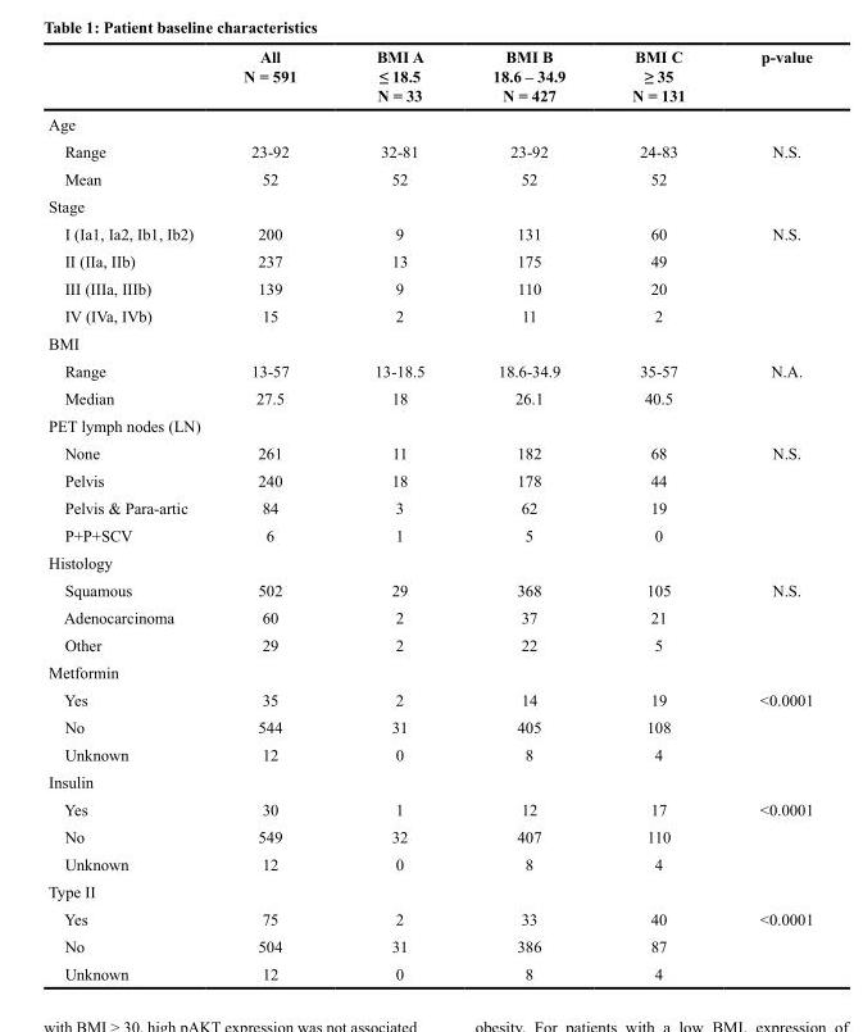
<table><thead><tr><td></td><td>All N = 591</td><td>BMI A ≤ 18.5 N = 33</td><td>BMI B 18.6 – 34.9 N = 427</td><td>BMI C ≥ 35 N = 131</td><td>p-value</td></tr></thead><tbody><tr><td colspan="6">Age</td></tr><tr><td>Range</td><td>23-92</td><td>32-81</td><td>23-92</td><td>24-83</td><td rowspan="2">N.S.</td></tr><tr><td>Mean</td><td>52</td><td>52</td><td>52</td><td>52</td></tr><tr><td colspan="6">Stage</td></tr><tr><td>I (Ia1, Ia2, Ib1, Ib2)</td><td>200</td><td>9</td><td>131</td><td>60</td><td rowspan="4">N.S.</td></tr><tr><td>II (IIa, IIb)</td><td>237</td><td>13</td><td>175</td><td>49</td></tr><tr><td>III (IIIa, IIIb)</td><td>139</td><td>9</td><td>110</td><td>20</td></tr><tr><td>IV (IVa, IVb)</td><td>15</td><td>2</td><td>11</td><td>2</td></tr><tr><td colspan="6">BMI</td></tr><tr><td>Range</td><td>13-57</td><td>13-18.5</td><td>18.6-34.9</td><td>35-57</td><td rowspan="2">N.A.</td></tr><tr><td>Median</td><td>27.5</td><td>18</td><td>26.1</td><td>40.5</td></tr><tr><td colspan="6">PET lymph nodes (LN)</td></tr><tr><td>None</td><td>261</td><td>11</td><td>182</td><td>68</td><td rowspan="4">N.S.</td></tr><tr><td>Pelvis</td><td>240</td><td>18</td><td>178</td><td>44</td></tr><tr><td>Pelvis &amp; Para-artic</td><td>84</td><td>3</td><td>62</td><td>19</td></tr><tr><td>P+P+SCV</td><td>6</td><td>1</td><td>5</td><td>0</td></tr><tr><td colspan="6">Histology</td></tr><tr><td>Squamous</td><td>502</td><td>29</td><td>368</td><td>105</td><td rowspan="3">N.S.</td></tr><tr><td>Adenocarcinoma</td><td>60</td><td>2</td><td>37</td><td>21</td></tr><tr><td>Other</td><td>29</td><td>2</td><td>22</td><td>5</td></tr><tr><td colspan="6">Metformin</td></tr><tr><td>Yes</td><td>35</td><td>2</td><td>14</td><td>19</td><td rowspan="3">&lt;0.0001</td></tr><tr><td>No</td><td>544</td><td>31</td><td>405</td><td>108</td></tr><tr><td>Unknown</td><td>12</td><td>0</td><td>8</td><td>4</td></tr><tr><td colspan="6">Insulin</td></tr><tr><td>Yes</td><td>30</td><td>1</td><td>12</td><td>17</td><td rowspan="3">&lt;0.0001</td></tr><tr><td>No</td><td>549</td><td>32</td><td>407</td><td>110</td></tr><tr><td>Unknown</td><td>12</td><td>0</td><td>8</td><td>4</td></tr><tr><td colspan="6">Type II</td></tr><tr><td>Yes</td><td>75</td><td>2</td><td>33</td><td>40</td><td rowspan="3">&lt;0.0001</td></tr><tr><td>No</td><td>504</td><td>31</td><td>386</td><td>87</td></tr><tr><td>Unknown</td><td>12</td><td>0</td><td>8</td><td>4</td></tr></tbody></table>